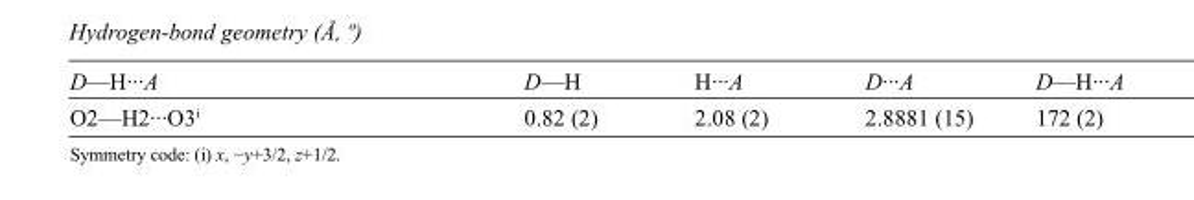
<table><tbody><tr><td>D—H···A</td><td>D—H</td><td>H···A</td><td>D···A</td><td>D—H···A</td></tr><tr><td>O2—H2···O3<sup>i</sup></td><td>0.82 (2)</td><td>2.08 (2)</td><td>2.8881 (15)</td><td>172 (2)</td></tr></tbody></table>